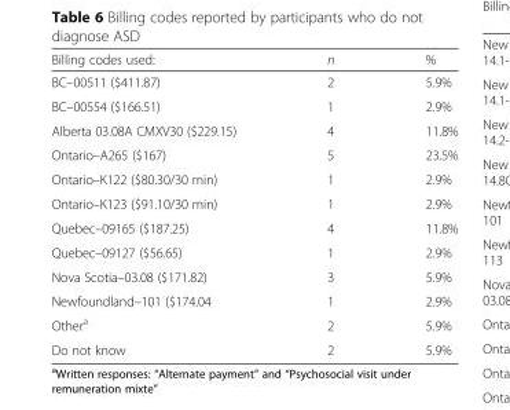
<table><thead><tr><td>Billing codes used:</td><td>n</td><td>%</td></tr></thead><tbody><tr><td>BC–00511 ($411.87)</td><td>2</td><td>5.9%</td></tr><tr><td>BC–00554 ($166.51)</td><td>1</td><td>2.9%</td></tr><tr><td>Alberta 03.08A CMXV30 ($229.15)</td><td>4</td><td>11.8%</td></tr><tr><td>Ontario–A265 ($167)</td><td>5</td><td>23.5%</td></tr><tr><td>Ontario–K122 ($80.30/30 min)</td><td>1</td><td>2.9%</td></tr><tr><td>Ontario–K123 ($91.10/30 min)</td><td>1</td><td>2.9%</td></tr><tr><td>Quebec–09165 ($187.25)</td><td>4</td><td>11.8%</td></tr><tr><td>Quebec–09127 ($56.65)</td><td>1</td><td>2.9%</td></tr><tr><td>Nova Scotia–03.08 ($171.82)</td><td>3</td><td>5.9%</td></tr><tr><td>Newfoundland–101 ($174.04</td><td>1</td><td>2.9%</td></tr><tr><td>Other<sup>a</sup></td><td>2</td><td>5.9%</td></tr><tr><td>Do not know</td><td>2</td><td>5.9%</td></tr></tbody></table>